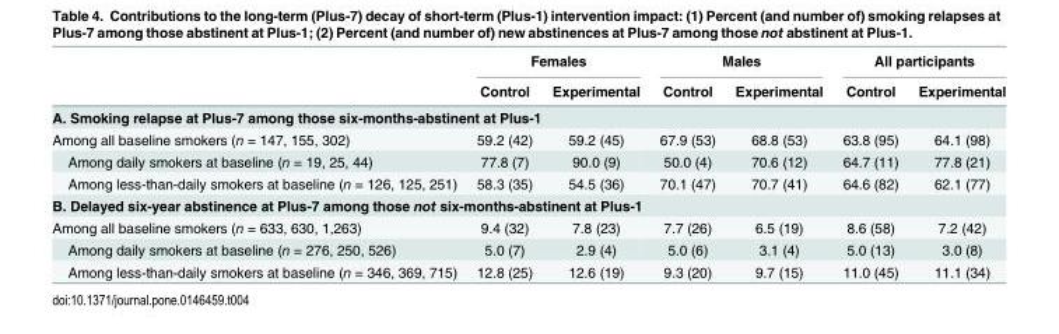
<table><thead><tr><td rowspan="2"></td><td colspan="2">Females</td><td colspan="2">Males</td><td colspan="2">All participants</td></tr><tr><td>Control</td><td>Experimental</td><td>Control</td><td>Experimental</td><td>Control</td><td>Experimental</td></tr></thead><tbody><tr><td colspan="7">A. Smoking relapse at Plus-7 among those six-months-abstinent at Plus-1</td></tr><tr><td>Among all baseline smokers (n = 147, 155, 302)</td><td>59.2 (42)</td><td>59.2 (45)</td><td>67.9 (53)</td><td>68.8 (53)</td><td>63.8 (95)</td><td>64.1 (98)</td></tr><tr><td>Among daily smokers at baseline (n = 19, 25, 44)</td><td>77.8 (7)</td><td>90.0 (9)</td><td>50.0 (4)</td><td>70.6 (12)</td><td>64.7 (11)</td><td>77.8 (21)</td></tr><tr><td>Among less-than-daily smokers at baseline (n = 126, 125, 251)</td><td>58.3 (35)</td><td>54.5 (36)</td><td>70.1 (47)</td><td>70.7 (41)</td><td>64.6 (82)</td><td>62.1 (77)</td></tr><tr><td colspan="7">B. Delayed six-year abstinence at Plus-7 among those not six-months-abstinent at Plus-1</td></tr><tr><td>Among all baseline smokers (n = 633, 630, 1,263)</td><td>9.4 (32)</td><td>7.8 (23)</td><td>7.7 (26)</td><td>6.5 (19)</td><td>8.6 (58)</td><td>7.2 (42)</td></tr><tr><td>Among daily smokers at baseline (n = 276, 250, 526)</td><td>5.0 (7)</td><td>2.9 (4)</td><td>5.0 (6)</td><td>3.1 (4)</td><td>5.0 (13)</td><td>3.0 (8)</td></tr><tr><td>Among less-than-daily smokers at baseline (n = 346, 369, 715)</td><td>12.8 (25)</td><td>12.6 (19)</td><td>9.3 (20)</td><td>9.7 (15)</td><td>11.0 (45)</td><td>11.1 (34)</td></tr></tbody></table>